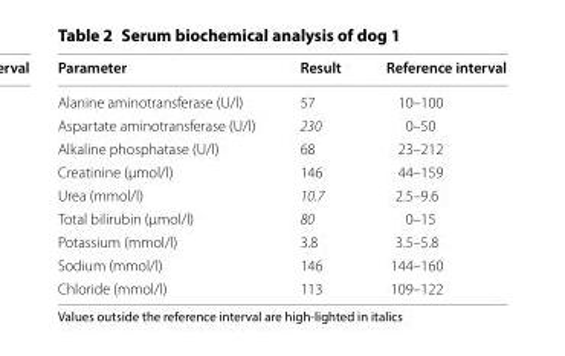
<table><thead><tr><td>Parameter</td><td>Result</td><td>Reference interval</td></tr></thead><tbody><tr><td>Alanine aminotransferase (U/l)</td><td>57</td><td>10–100</td></tr><tr><td>Aspartate aminotransferase (U/l)</td><td>230</td><td>0–50</td></tr><tr><td>Alkaline phosphatase (U/l)</td><td>68</td><td>23–212</td></tr><tr><td>Creatinine (µmol/l)</td><td>146</td><td>44–159</td></tr><tr><td>Urea (mmol/l)</td><td>10.7</td><td>2.5–9.6</td></tr><tr><td>Total bilirubin (µmol/l)</td><td>80</td><td>0–15</td></tr><tr><td>Potassium (mmol/l)</td><td>3.8</td><td>3.5–5.8</td></tr><tr><td>Sodium (mmol/l)</td><td>146</td><td>144–160</td></tr><tr><td>Chloride (mmol/l)</td><td>113</td><td>109–122</td></tr></tbody></table>